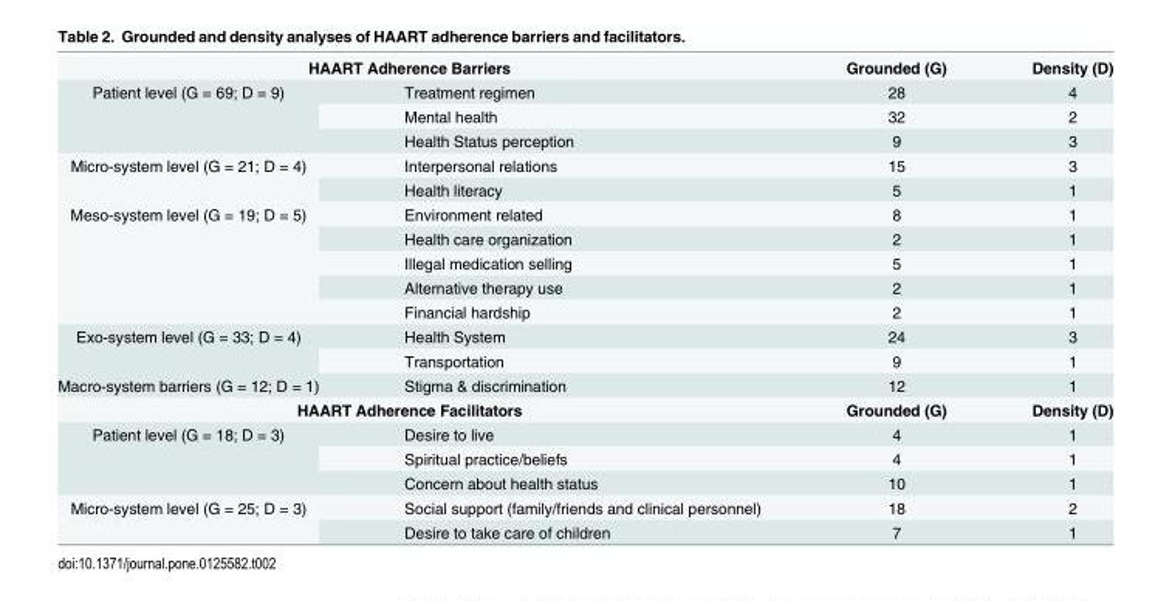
<table><tbody><tr><td colspan="2">HAART Adherence Barriers</td><td>Grounded (G)</td><td>Density (D)</td></tr><tr><td rowspan="3">Patient level (G = 69; D = 9)</td><td>Treatment regimen</td><td>28</td><td>4</td></tr><tr><td>Mental health</td><td>32</td><td>2</td></tr><tr><td>Health Status perception</td><td>9</td><td>3</td></tr><tr><td rowspan="2">Micro-system level (G = 21; D = 4)</td><td>Interpersonal relations</td><td>15</td><td>3</td></tr><tr><td>Health literacy</td><td>5</td><td>1</td></tr><tr><td rowspan="5">Meso-system level (G = 19; D = 5)</td><td>Environment related</td><td>8</td><td>1</td></tr><tr><td>Health care organization</td><td>2</td><td>1</td></tr><tr><td>Illegal medication selling</td><td>5</td><td>1</td></tr><tr><td>Alternative therapy use</td><td>2</td><td>1</td></tr><tr><td>Financial hardship</td><td>2</td><td>1</td></tr><tr><td rowspan="2">Exo-system level (G = 33; D = 4)</td><td>Health System</td><td>24</td><td>3</td></tr><tr><td>Transportation</td><td>9</td><td>1</td></tr><tr><td>Macro-system barriers (G = 12; D = 1)</td><td>Stigma &amp; discrimination</td><td>12</td><td>1</td></tr><tr><td colspan="2">HAART Adherence Facilitators</td><td>Grounded (G)</td><td>Density (D)</td></tr><tr><td rowspan="3">Patient level (G = 18; D = 3)</td><td>Desire to live</td><td>4</td><td>1</td></tr><tr><td>Spiritual practice/beliefs</td><td>4</td><td>1</td></tr><tr><td>Concern about health status</td><td>10</td><td>1</td></tr><tr><td rowspan="2">Micro-system level (G = 25; D = 3)</td><td>Social support (family/friends and clinical personnel)</td><td>18</td><td>2</td></tr><tr><td>Desire to take care of children</td><td>7</td><td>1</td></tr></tbody></table>